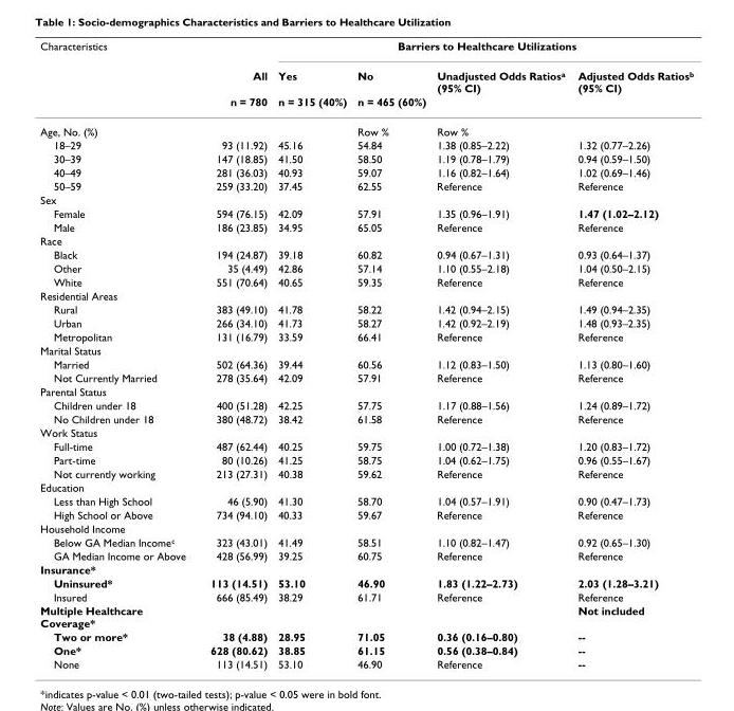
<table><thead><tr><td rowspan="3">Characteristics</td><td rowspan="3">All n = 780</td><td colspan="4">Barriers to Healthcare Utilizations</td></tr><tr><td rowspan="2">Yes n = 315 (40%)</td><td rowspan="2">No n = 465 (60%)</td><td rowspan="2">Unadjusted Odds Ratios<sup>a</sup> (95% CI)</td><td rowspan="2">Adjusted Odds Ratios<sup>b</sup> (95% CI)</td></tr><tr></tr></thead><tbody><tr><td>Age, No. (%)</td><td></td><td></td><td>Row %</td><td>Row %</td><td></td></tr><tr><td>18–29</td><td>93 (11.92)</td><td>45.16</td><td>54.84</td><td>1.38 (0.85–2.22)</td><td>1.32 (0.77–2.26)</td></tr><tr><td>30–39</td><td>147 (18.85)</td><td>41.50</td><td>58.50</td><td>1.19 (0.78–1.79)</td><td>0.94 (0.59–1.50)</td></tr><tr><td>40–49</td><td>281 (36.03)</td><td>40.93</td><td>59.07</td><td>1.16 (0.82–1.64)</td><td>1.02 (0.69–1.46)</td></tr><tr><td>50–59</td><td>259 (33.20)</td><td>37.45</td><td>62.55</td><td>Reference</td><td>Reference</td></tr><tr><td colspan="6">Sex</td></tr><tr><td>Female</td><td>594 (76.15)</td><td>42.09</td><td>57.91</td><td>1.35 (0.96–1.91)</td><td>1.47 (1.02–2.12)</td></tr><tr><td>Male</td><td>186 (23.85)</td><td>34.95</td><td>65.05</td><td>Reference</td><td>Reference</td></tr><tr><td colspan="6">Race</td></tr><tr><td>Black</td><td>194 (24.87)</td><td>39.18</td><td>60.82</td><td>0.94 (0.67–1.31)</td><td>0.93 (0.64–1.37)</td></tr><tr><td>Other</td><td>35 (4.49)</td><td>42.86</td><td>57.14</td><td>1.10 (0.55–2.18)</td><td>1.04 (0.50–2.15)</td></tr><tr><td>White</td><td>551 (70.64)</td><td>40.65</td><td>59.35</td><td>Reference</td><td>Reference</td></tr><tr><td colspan="6">Residential Areas</td></tr><tr><td>Rural</td><td>383 (49.10)</td><td>41.78</td><td>58.22</td><td>1.42 (0.94–2.15)</td><td>1.49 (0.94–2.35)</td></tr><tr><td>Urban</td><td>266 (34.10)</td><td>41.73</td><td>58.27</td><td>1.42 (0.92–2.19)</td><td>1.48 (0.93–2.35)</td></tr><tr><td>Metropolitan</td><td>131 (16.79)</td><td>33.59</td><td>66.41</td><td>Reference</td><td>Reference</td></tr><tr><td colspan="6">Marital Status</td></tr><tr><td>Married</td><td>502 (64.36)</td><td>39.44</td><td>60.56</td><td>1.12 (0.83–1.50)</td><td>1.13 (0.80–1.60)</td></tr><tr><td>Not Currently Married</td><td>278 (35.64)</td><td>42.09</td><td>57.91</td><td>Reference</td><td>Reference</td></tr><tr><td colspan="6">Parental Status</td></tr><tr><td>Children under 18</td><td>400 (51.28)</td><td>42.25</td><td>57.75</td><td>1.17 (0.88–1.56)</td><td>1.24 (0.89–1.72)</td></tr><tr><td>No Children under 18</td><td>380 (48.72)</td><td>38.42</td><td>61.58</td><td>Reference</td><td>Reference</td></tr><tr><td colspan="6">Work Status</td></tr><tr><td>Full-time</td><td>487 (62.44)</td><td>40.25</td><td>59.75</td><td>1.00 (0.72–1.38)</td><td>1.20 (0.83–1.72)</td></tr><tr><td>Part-time</td><td>80 (10.26)</td><td>41.25</td><td>58.75</td><td>1.04 (0.62–1.75)</td><td>0.96 (0.55–1.67)</td></tr><tr><td>Not currently working</td><td>213 (27.31)</td><td>40.38</td><td>59.62</td><td>Reference</td><td>Reference</td></tr><tr><td colspan="6">Education</td></tr><tr><td>Less than High School</td><td>46 (5.90)</td><td>41.30</td><td>58.70</td><td>1.04 (0.57–1.91)</td><td>0.90 (0.47–1.73)</td></tr><tr><td>High School or Above</td><td>734 (94.10)</td><td>40.33</td><td>59.67</td><td>Reference</td><td>Reference</td></tr><tr><td colspan="6">Household Income</td></tr><tr><td>Below GA Median Income<sup>c</sup></td><td>323 (43.01)</td><td>41.49</td><td>58.51</td><td>1.10 (0.82–1.47)</td><td>0.92 (0.65–1.30)</td></tr><tr><td>GA Median Income or Above</td><td>428 (56.99)</td><td>39.25</td><td>60.75</td><td>Reference</td><td>Reference</td></tr><tr><td colspan="6">Insurance*</td></tr><tr><td>Uninsured*</td><td>113 (14.51)</td><td>53.10</td><td>46.90</td><td>1.83 (1.22–2.73)</td><td>2.03 (1.28–3.21)</td></tr><tr><td>Insured</td><td>666 (85.49)</td><td>38.29</td><td>61.71</td><td>Reference</td><td>Reference</td></tr><tr><td>Multiple Healthcare Coverage*</td><td></td><td></td><td></td><td></td><td>Not included</td></tr><tr><td>Two or more*</td><td>38 (4.88)</td><td>28.95</td><td>71.05</td><td>0.36 (0.16–0.80)</td><td>--</td></tr><tr><td>One*</td><td>628 (80.62)</td><td>38.85</td><td>61.15</td><td>0.56 (0.38–0.84)</td><td>--</td></tr><tr><td>None</td><td>113 (14.51)</td><td>53.10</td><td>46.90</td><td>Reference</td><td>--</td></tr></tbody></table>